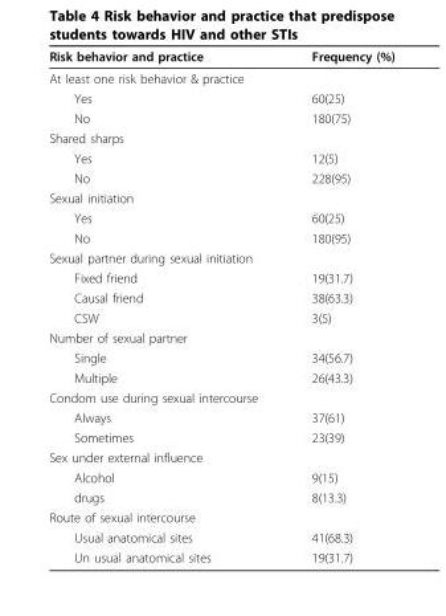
<table><thead><tr><td>Risk behavior and practice</td><td>Frequency (%)</td></tr></thead><tbody><tr><td colspan="2">At least one risk behavior &amp; practice</td></tr><tr><td>Yes</td><td>60(25)</td></tr><tr><td>No</td><td>180(75)</td></tr><tr><td colspan="2">Shared sharps</td></tr><tr><td>Yes</td><td>12(5)</td></tr><tr><td>No</td><td>228(95)</td></tr><tr><td colspan="2">Sexual initiation</td></tr><tr><td>Yes</td><td>60(25)</td></tr><tr><td>No</td><td>180(95)</td></tr><tr><td colspan="2">Sexual partner during sexual initiation</td></tr><tr><td>Fixed friend</td><td>19(31.7)</td></tr><tr><td>Causal friend</td><td>38(63.3)</td></tr><tr><td>CSW</td><td>3(5)</td></tr><tr><td colspan="2">Number of sexual partner</td></tr><tr><td>Single</td><td>34(56.7)</td></tr><tr><td>Multiple</td><td>26(43.3)</td></tr><tr><td colspan="2">Condom use during sexual intercourse</td></tr><tr><td>Always</td><td>37(61)</td></tr><tr><td>Sometimes</td><td>23(39)</td></tr><tr><td colspan="2">Sex under external influence</td></tr><tr><td>Alcohol</td><td>9(15)</td></tr><tr><td>drugs</td><td>8(13.3)</td></tr><tr><td colspan="2">Route of sexual intercourse</td></tr><tr><td>Usual anatomical sites</td><td>41(68.3)</td></tr><tr><td>Un usual anatomical sites</td><td>19(31.7)</td></tr></tbody></table>